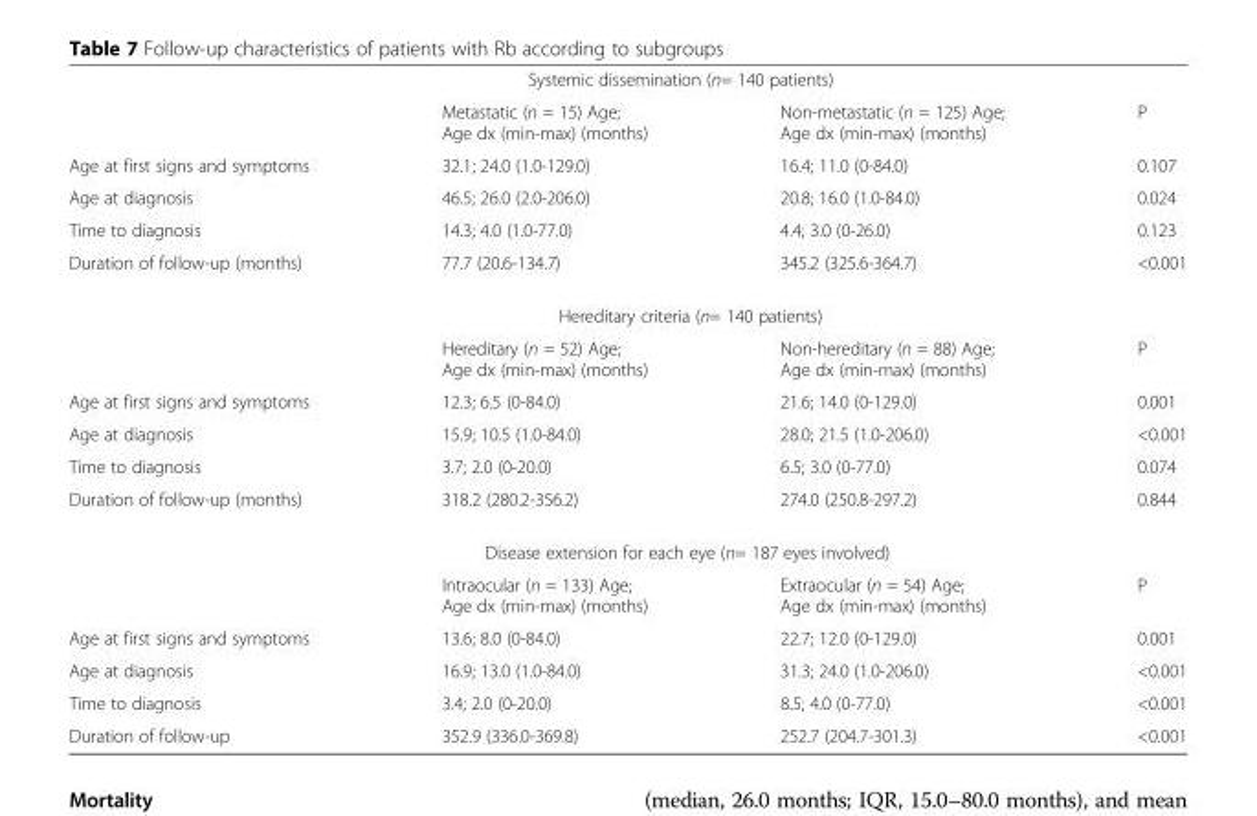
<table><tbody><tr><td colspan="4">Systemic dissemination (n= 140 patients)</td></tr><tr><td></td><td>Metastatic (n = 15) Age; Age dx (min-max) (months)</td><td>Non-metastatic (n = 125) Age; Age dx (min-max) (months)</td><td>P</td></tr><tr><td>Age at first signs and symptoms</td><td>32.1; 24.0 (1.0-129.0)</td><td>16.4; 11.0 (0-84.0)</td><td>0.107</td></tr><tr><td>Age at diagnosis</td><td>46.5; 26.0 (2.0-206.0)</td><td>20.8; 16.0 (1.0-84.0)</td><td>0.024</td></tr><tr><td>Time to diagnosis</td><td>14.3; 4.0 (1.0-77.0)</td><td>4.4; 3.0 (0-26.0)</td><td>0.123</td></tr><tr><td>Duration of follow-up (months)</td><td>77.7 (20.6-134.7)</td><td>345.2 (325.6-364.7)</td><td>&lt;0.001</td></tr><tr><td colspan="4">Hereditary criteria (n= 140 patients)</td></tr><tr><td></td><td>Hereditary (n = 52) Age; Age dx (min-max) (months)</td><td>Non-hereditary (n = 88) Age; Age dx (min-max) (months)</td><td>P</td></tr><tr><td>Age at first signs and symptoms</td><td>12.3; 6.5 (0-84.0)</td><td>21.6; 14.0 (0-129.0)</td><td>0.001</td></tr><tr><td>Age at diagnosis</td><td>15.9; 10.5 (1.0-84.0)</td><td>28.0; 21.5 (1.0-206.0)</td><td>&lt;0.001</td></tr><tr><td>Time to diagnosis</td><td>3.7; 2.0 (0-20.0)</td><td>6.5; 3.0 (0-77.0)</td><td>0.074</td></tr><tr><td>Duration of follow-up (months)</td><td>318.2 (280.2-356.2)</td><td>274.0 (250.8-297.2)</td><td>0.844</td></tr><tr><td colspan="4">Disease extension for each eye (n= 187 eyes involved)</td></tr><tr><td></td><td>Intraocular (n = 133) Age; Age dx (min-max) (months)</td><td>Extraocular (n = 54) Age; Age dx (min-max) (months)</td><td>P</td></tr><tr><td>Age at first signs and symptoms</td><td>13.6; 8.0 (0-84.0)</td><td>22.7; 12.0 (0-129.0)</td><td>0.001</td></tr><tr><td>Age at diagnosis</td><td>16.9; 13.0 (1.0-84.0)</td><td>31.3; 24.0 (1.0-206.0)</td><td>&lt;0.001</td></tr><tr><td>Time to diagnosis</td><td>3.4; 2.0 (0-20.0)</td><td>8.5; 4.0 (0-77.0)</td><td>&lt;0.001</td></tr><tr><td>Duration of follow-up</td><td>352.9 (336.0-369.8)</td><td>252.7 (204.7-301.3)</td><td>&lt;0.001</td></tr></tbody></table>